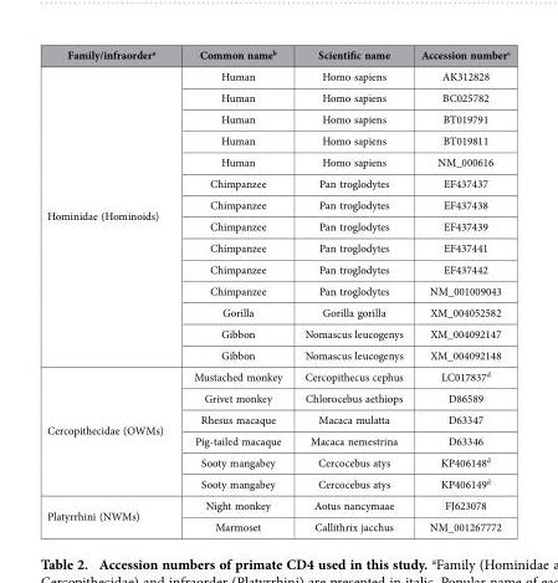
<table><thead><tr><td>Family/infraorder<sup>a</sup></td><td>Common name<sup>b</sup></td><td>Scientific name</td><td>Accession number<sup>c</sup></td></tr></thead><tbody><tr><td rowspan="14">Hominidae (Hominoids)</td><td>Human</td><td>Homo sapiens</td><td>AK312828</td></tr><tr><td>Human</td><td>Homo sapiens</td><td>BC025782</td></tr><tr><td>Human</td><td>Homo sapiens</td><td>BT019791</td></tr><tr><td>Human</td><td>Homo sapiens</td><td>BT019811</td></tr><tr><td>Human</td><td>Homo sapiens</td><td>NM_000616</td></tr><tr><td>Chimpanzee</td><td>Pan troglodytes</td><td>EF437437</td></tr><tr><td>Chimpanzee</td><td>Pan troglodytes</td><td>EF437438</td></tr><tr><td>Chimpanzee</td><td>Pan troglodytes</td><td>EF437439</td></tr><tr><td>Chimpanzee</td><td>Pan troglodytes</td><td>EF437441</td></tr><tr><td>Chimpanzee</td><td>Pan troglodytes</td><td>EF437442</td></tr><tr><td>Chimpanzee</td><td>Pan troglodytes</td><td>NM_001009043</td></tr><tr><td>Gorilla</td><td>Gorilla gorilla</td><td>XM_004052582</td></tr><tr><td>Gibbon</td><td>Nomascus leucogenys</td><td>XM_004092147</td></tr><tr><td>Gibbon</td><td>Nomascus leucogenys</td><td>XM_004092148</td></tr><tr><td rowspan="6">Cercopithecidae (OWMs)</td><td>Mustached monkey</td><td>Cercopithecus cephus</td><td>LC017837<sup>d</sup></td></tr><tr><td>Grivet monkey</td><td>Chlorocebus aethiops</td><td>D86589</td></tr><tr><td>Rhesus macaque</td><td>Macaca mulatta</td><td>D63347</td></tr><tr><td>Pig-tailed macaque</td><td>Macaca nemestrina</td><td>D63346</td></tr><tr><td>Sooty mangabey</td><td>Cercocebus atys</td><td>KP406148<sup>d</sup></td></tr><tr><td>Sooty mangabey</td><td>Cercocebus atys</td><td>KP406149<sup>d</sup></td></tr><tr><td rowspan="2">Platyrrhini (NWMs)</td><td>Night monkey</td><td>Aotus nancymaae</td><td>FJ623078</td></tr><tr><td>Marmoset</td><td>Callithrix jacchus</td><td>NM_001267772</td></tr></tbody></table>